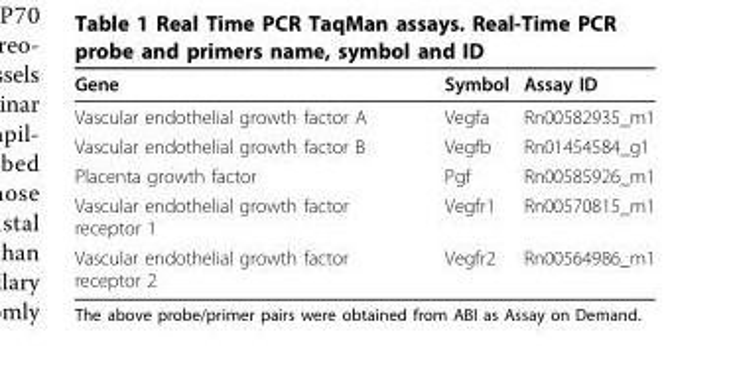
<table><thead><tr><td>Gene</td><td>Symbol</td><td>Assay ID</td></tr></thead><tbody><tr><td>Vascular endothelial growth factor A</td><td>Vegfa</td><td>Rn00582935_m1</td></tr><tr><td>Vascular endothelial growth factor B</td><td>Vegfb</td><td>Rn01454584_g1</td></tr><tr><td>Placenta growth factor</td><td>Pgf</td><td>Rn00585926_m1</td></tr><tr><td>Vascular endothelial growth factor receptor 1</td><td>Vegfr1</td><td>Rn00570815_m1</td></tr><tr><td>Vascular endothelial growth factor receptor 2</td><td>Vegfr2</td><td>Rn00564986_m1</td></tr></tbody></table>